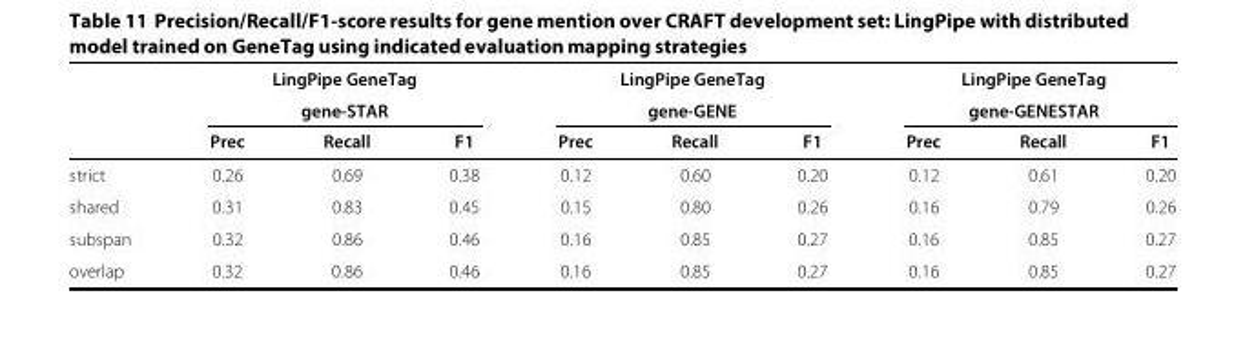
<table><thead><tr><td rowspan="2"></td><td colspan="3">LingPipe GeneTag gene-STAR</td><td colspan="3">LingPipe GeneTag gene-GENE</td><td colspan="3">LingPipe GeneTag gene-GENESTAR</td></tr><tr><td>Prec</td><td>Recall</td><td>F1</td><td>Prec</td><td>Recall</td><td>F1</td><td>Prec</td><td>Recall</td><td>F1</td></tr></thead><tbody><tr><td>strict</td><td>0.26</td><td>0.69</td><td>0.38</td><td>0.12</td><td>0.60</td><td>0.20</td><td>0.12</td><td>0.61</td><td>0.20</td></tr><tr><td>shared</td><td>0.31</td><td>0.83</td><td>0.45</td><td>0.15</td><td>0.80</td><td>0.26</td><td>0.16</td><td>0.79</td><td>0.26</td></tr><tr><td>subspan</td><td>0.32</td><td>0.86</td><td>0.46</td><td>0.16</td><td>0.85</td><td>0.27</td><td>0.16</td><td>0.85</td><td>0.27</td></tr><tr><td>overlap</td><td>0.32</td><td>0.86</td><td>0.46</td><td>0.16</td><td>0.85</td><td>0.27</td><td>0.16</td><td>0.85</td><td>0.27</td></tr></tbody></table>